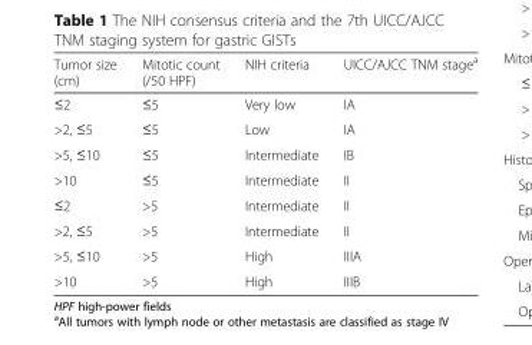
<table><thead><tr><td>Tumor size (cm)</td><td>Mitotic count (/50 HPF)</td><td>NIH criteria</td><td>UICC/AJCC TNM stage<sup>a</sup></td></tr></thead><tbody><tr><td>≤2</td><td>≤5</td><td>Very low</td><td>IA</td></tr><tr><td>&gt;2, ≤5</td><td>≤5</td><td>Low</td><td>IA</td></tr><tr><td>&gt;5, ≤10</td><td>≤5</td><td>Intermediate</td><td>IB</td></tr><tr><td>&gt;10</td><td>≤5</td><td>Intermediate</td><td>II</td></tr><tr><td>≤2</td><td>&gt;5</td><td>Intermediate</td><td>II</td></tr><tr><td>&gt;2, ≤5</td><td>&gt;5</td><td>Intermediate</td><td>II</td></tr><tr><td>&gt;5, ≤10</td><td>&gt;5</td><td>High</td><td>IIIA</td></tr><tr><td>&gt;10</td><td>&gt;5</td><td>High</td><td>IIIB</td></tr></tbody></table>